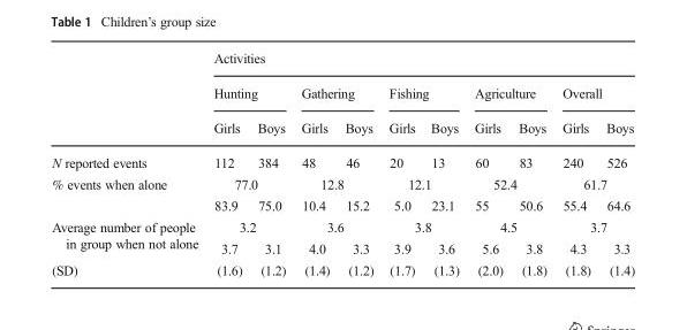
<table><thead><tr><td rowspan="3"></td><td colspan="10">Activities</td></tr><tr><td colspan="2">Hunting</td><td colspan="2">Gathering</td><td colspan="2">Fishing</td><td colspan="2">Agriculture</td><td colspan="2">Overall</td></tr><tr><td>Girls</td><td>Boys</td><td>Girls</td><td>Boys</td><td>Girls</td><td>Boys</td><td>Girls</td><td>Boys</td><td>Girls</td><td>Boys</td></tr></thead><tbody><tr><td>N reported events</td><td>112</td><td>384</td><td>48</td><td>46</td><td>20</td><td>13</td><td>60</td><td>83</td><td>240</td><td>526</td></tr><tr><td rowspan="2">% events when alone</td><td colspan="2">77.0</td><td colspan="2">12.8</td><td colspan="2">12.1</td><td colspan="2">52.4</td><td colspan="2">61.7</td></tr><tr><td>83.9</td><td>75.0</td><td>10.4</td><td>15.2</td><td>5.0</td><td>23.1</td><td>55</td><td>50.6</td><td>55.4</td><td>64.6</td></tr><tr><td rowspan="2">Average number of people in group when not alone</td><td colspan="2">3.2</td><td colspan="2">3.6</td><td colspan="2">3.8</td><td colspan="2">4.5</td><td colspan="2">3.7</td></tr><tr><td>3.7</td><td>3.1</td><td>4.0</td><td>3.3</td><td>3.9</td><td>3.6</td><td>5.6</td><td>3.8</td><td>4.3</td><td>3.3</td></tr><tr><td>(SD)</td><td>(1.6)</td><td>(1.2)</td><td>(1.4)</td><td>(1.2)</td><td>(1.7)</td><td>(1.3)</td><td>(2.0)</td><td>(1.8)</td><td>(1.8)</td><td>(1.4)</td></tr></tbody></table>